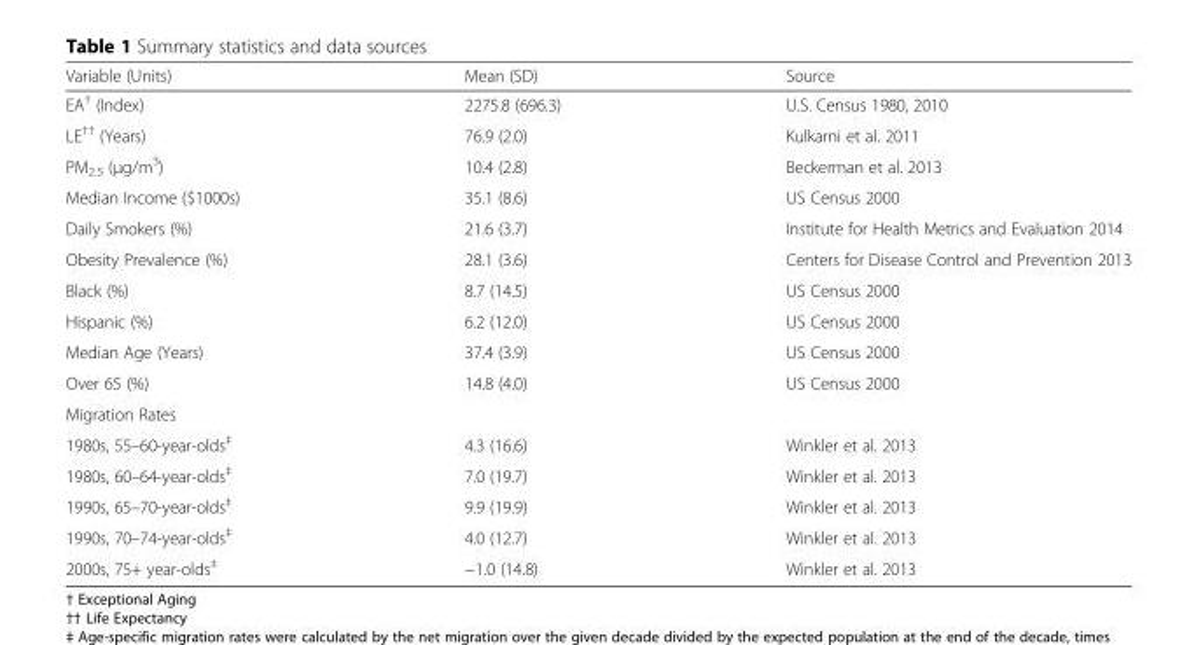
<table><thead><tr><td>Variable (Units)</td><td>Mean (SD)</td><td>Source</td></tr></thead><tbody><tr><td>EA<sup>†</sup> (Index)</td><td>2275.8 (696.3)</td><td>U.S. Census 1980, 2010</td></tr><tr><td>LE<sup>††</sup> (Years)</td><td>76.9 (2.0)</td><td>Kulkarni et al. 2011</td></tr><tr><td>PM<sub>2.5</sub> (μg/m<sup>3</sup>)</td><td>10.4 (2.8)</td><td>Beckerman et al. 2013</td></tr><tr><td>Median Income ($1000s)</td><td>35.1 (8.6)</td><td>US Census 2000</td></tr><tr><td>Daily Smokers (%)</td><td>21.6 (3.7)</td><td>Institute for Health Metrics and Evaluation 2014</td></tr><tr><td>Obesity Prevalence (%)</td><td>28.1 (3.6)</td><td>Centers for Disease Control and Prevention 2013</td></tr><tr><td>Black (%)</td><td>8.7 (14.5)</td><td>US Census 2000</td></tr><tr><td>Hispanic (%)</td><td>6.2 (12.0)</td><td>US Census 2000</td></tr><tr><td>Median Age (Years)</td><td>37.4 (3.9)</td><td>US Census 2000</td></tr><tr><td>Over 65 (%)</td><td>14.8 (4.0)</td><td>US Census 2000</td></tr><tr><td colspan="3">Migration Rates</td></tr><tr><td>1980s, 55–60-year-olds<sup>‡</sup></td><td>4.3 (16.6)</td><td>Winkler et al. 2013</td></tr><tr><td>1980s, 60–64-year-olds<sup>‡</sup></td><td>7.0 (19.7)</td><td>Winkler et al. 2013</td></tr><tr><td>1990s, 65–70-year-olds<sup>‡</sup></td><td>9.9 (19.9)</td><td>Winkler et al. 2013</td></tr><tr><td>1990s, 70–74-year-olds<sup>‡</sup></td><td>4.0 (12.7)</td><td>Winkler et al. 2013</td></tr><tr><td>2000s, 75+ year-olds<sup>‡</sup></td><td>−1.0 (14.8)</td><td>Winkler et al. 2013</td></tr></tbody></table>